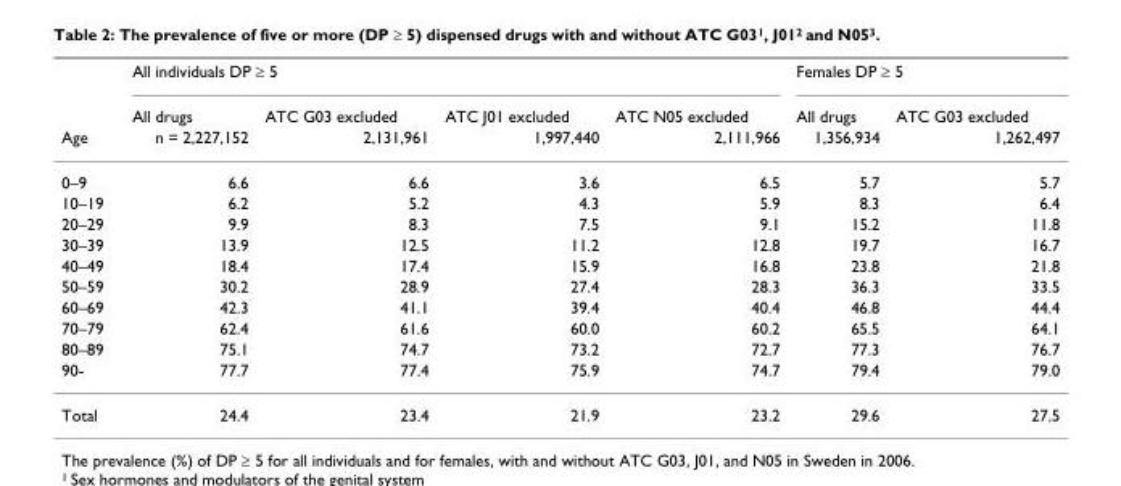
<table><thead><tr><td rowspan="3">Age</td><td colspan="4">All individuals DP ≥ 5</td><td colspan="2">Females DP ≥ 5</td></tr><tr><td rowspan="2">All drugs n = 2,227,152</td><td rowspan="2">ATC G03 excluded 2,131,961</td><td rowspan="2">ATC J01 excluded 1,997,440</td><td rowspan="2">ATC N05 excluded 2,111,966</td><td rowspan="2">All drugs 1,356,934</td><td rowspan="2">ATC G03 excluded 1,262,497</td></tr><tr></tr></thead><tbody><tr><td>0–9</td><td>6.6</td><td>6.6</td><td>3.6</td><td>6.5</td><td>5.7</td><td>5.7</td></tr><tr><td>10–19</td><td>6.2</td><td>5.2</td><td>4.3</td><td>5.9</td><td>8.3</td><td>6.4</td></tr><tr><td>20–29</td><td>9.9</td><td>8.3</td><td>7.5</td><td>9.1</td><td>15.2</td><td>11.8</td></tr><tr><td>30–39</td><td>13.9</td><td>12.5</td><td>11.2</td><td>12.8</td><td>19.7</td><td>16.7</td></tr><tr><td>40–49</td><td>18.4</td><td>17.4</td><td>15.9</td><td>16.8</td><td>23.8</td><td>21.8</td></tr><tr><td>50–59</td><td>30.2</td><td>28.9</td><td>27.4</td><td>28.3</td><td>36.3</td><td>33.5</td></tr><tr><td>60–69</td><td>42.3</td><td>41.1</td><td>39.4</td><td>40.4</td><td>46.8</td><td>44.4</td></tr><tr><td>70–79</td><td>62.4</td><td>61.6</td><td>60.0</td><td>60.2</td><td>65.5</td><td>64.1</td></tr><tr><td>80–89</td><td>75.1</td><td>74.7</td><td>73.2</td><td>72.7</td><td>77.3</td><td>76.7</td></tr><tr><td>90-</td><td>77.7</td><td>77.4</td><td>75.9</td><td>74.7</td><td>79.4</td><td>79.0</td></tr><tr><td>Total</td><td>24.4</td><td>23.4</td><td>21.9</td><td>23.2</td><td>29.6</td><td>27.5</td></tr></tbody></table>